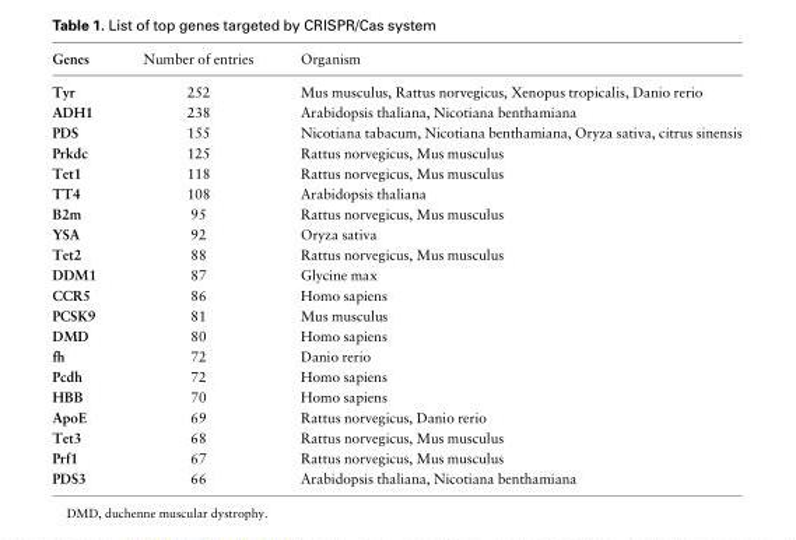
<table><thead><tr><td>Genes</td><td>Number of entries</td><td>Organism</td></tr></thead><tbody><tr><td>Tyr</td><td>252</td><td>Mus musculus, Rattus norvegicus, Xenopus tropicalis, Danio rerio</td></tr><tr><td>ADH1</td><td>238</td><td>Arabidopsis thaliana, Nicotiana benthamiana</td></tr><tr><td>PDS</td><td>155</td><td>Nicotiana tabacum, Nicotiana benthamiana, Oryza sativa, citrus sinensis</td></tr><tr><td>Prkdc</td><td>125</td><td>Rattus norvegicus, Mus musculus</td></tr><tr><td>Tet1</td><td>118</td><td>Rattus norvegicus, Mus musculus</td></tr><tr><td>TT4</td><td>108</td><td>Arabidopsis thaliana</td></tr><tr><td>B2m</td><td>95</td><td>Rattus norvegicus, Mus musculus</td></tr><tr><td>YSA</td><td>92</td><td>Oryza sativa</td></tr><tr><td>Tet2</td><td>88</td><td>Rattus norvegicus, Mus musculus</td></tr><tr><td>DDM1</td><td>87</td><td>Glycine max</td></tr><tr><td>CCR5</td><td>86</td><td>Homo sapiens</td></tr><tr><td>PCSK9</td><td>81</td><td>Mus musculus</td></tr><tr><td>DMD</td><td>80</td><td>Homo sapiens</td></tr><tr><td>fh</td><td>72</td><td>Danio rerio</td></tr><tr><td>Pcdh</td><td>72</td><td>Homo sapiens</td></tr><tr><td>HBB</td><td>70</td><td>Homo sapiens</td></tr><tr><td>ApoE</td><td>69</td><td>Rattus norvegicus, Danio rerio</td></tr><tr><td>Tet3</td><td>68</td><td>Rattus norvegicus, Mus musculus</td></tr><tr><td>Prf1</td><td>67</td><td>Rattus norvegicus, Mus musculus</td></tr><tr><td>PDS3</td><td>66</td><td>Arabidopsis thaliana, Nicotiana benthamiana</td></tr></tbody></table>